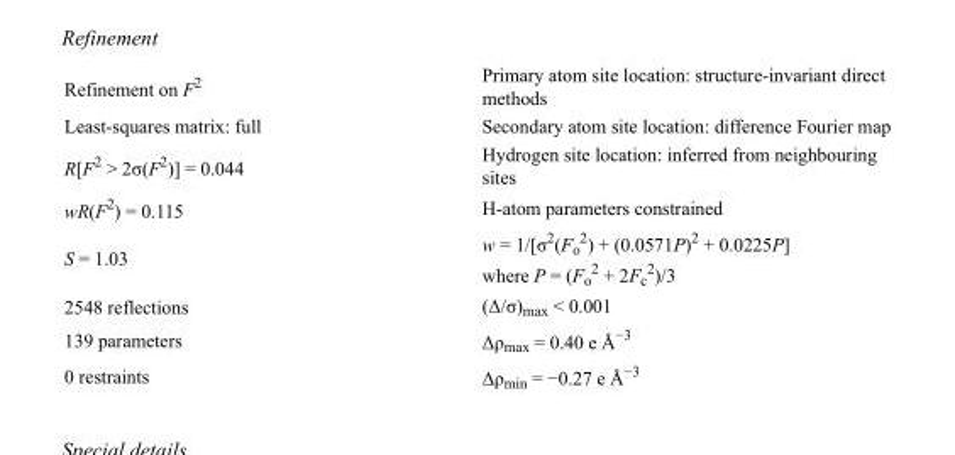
<table><tbody><tr><td>Refinement on F<sup>2</sup></td><td>Primary atom site location: structure-invariant direct methods</td></tr><tr><td>Least-squares matrix: full</td><td>Secondary atom site location: difference Fourier map</td></tr><tr><td>R[F<sup>2</sup> &gt; 2σ(F<sup>2</sup>)] = 0.044</td><td>Hydrogen site location: inferred from neighbouring sites</td></tr><tr><td>wR(F<sup>2</sup>) = 0.115</td><td>H-atom parameters constrained</td></tr><tr><td>S = 1.03</td><td>w = 1/[σ<sup>2</sup>(F<sub>o</sub> <sup>2</sup>) + (0.0571P)<sup>2</sup> + 0.0225P] where P = (F<sub>o</sub> <sup>2</sup> + 2F<sub>c</sub> <sup>2</sup>)/3</td></tr><tr><td>2548 reflections</td><td>(Δ/σ)<sub>max</sub> &lt; 0.001</td></tr><tr><td>139 parameters</td><td>Δρ<sub>max</sub> = 0.40 e Å<sup>−3</sup></td></tr><tr><td>0 restraints</td><td>Δρ<sub>min</sub> = −0.27 e Å<sup>−3</sup></td></tr></tbody></table>